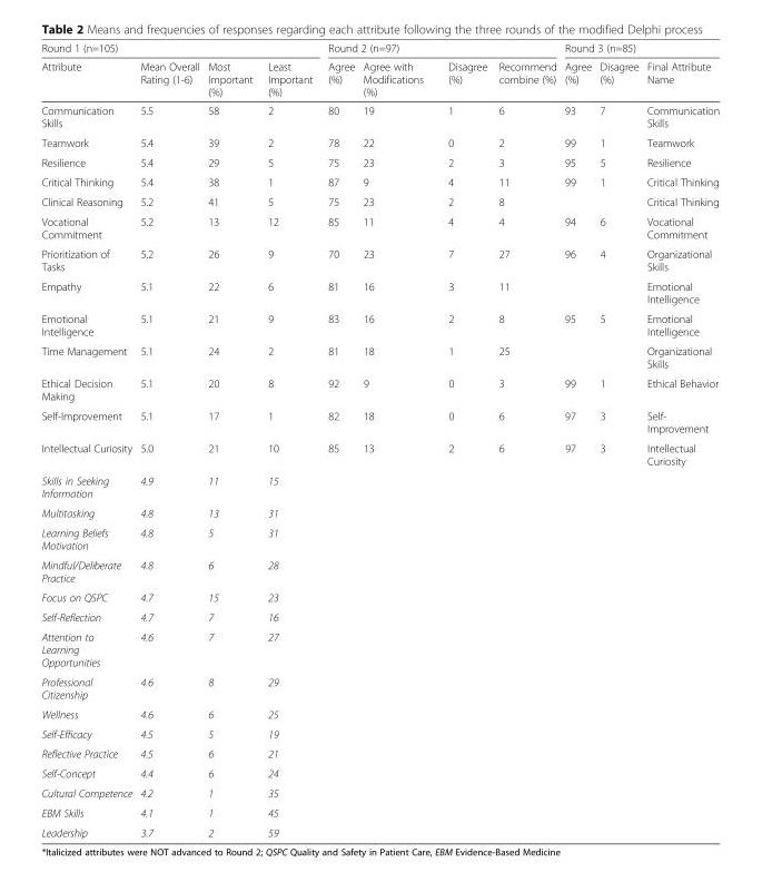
<table><thead><tr><td colspan="4">Round 1 (n=105)</td><td colspan="4">Round 2 (n=97)</td><td colspan="3">Round 3 (n=85)</td></tr><tr><td>Attribute</td><td>Mean Overall Rating (1-6)</td><td>Most Important (%)</td><td>Least Important (%)</td><td>Agree (%)</td><td>Agree with Modifications (%)</td><td>Disagree (%)</td><td>Recommend combine (%)</td><td>Agree (%)</td><td>Disagree (%)</td><td>Final Attribute Name</td></tr></thead><tbody><tr><td>Communication Skills</td><td>5.5</td><td>58</td><td>2</td><td>80</td><td>19</td><td>1</td><td>6</td><td>93</td><td>7</td><td>Communication Skills</td></tr><tr><td>Teamwork</td><td>5.4</td><td>39</td><td>2</td><td>78</td><td>22</td><td>0</td><td>2</td><td>99</td><td>1</td><td>Teamwork</td></tr><tr><td>Resilience</td><td>5.4</td><td>29</td><td>5</td><td>75</td><td>23</td><td>2</td><td>3</td><td>95</td><td>5</td><td>Resilience</td></tr><tr><td>Critical Thinking</td><td>5.4</td><td>38</td><td>1</td><td>87</td><td>9</td><td>4</td><td>11</td><td>99</td><td>1</td><td>Critical Thinking</td></tr><tr><td>Clinical Reasoning</td><td>5.2</td><td>41</td><td>5</td><td>75</td><td>23</td><td>2</td><td>8</td><td></td><td></td><td>Critical Thinking</td></tr><tr><td>Vocational Commitment</td><td>5.2</td><td>13</td><td>12</td><td>85</td><td>11</td><td>4</td><td>4</td><td>94</td><td>6</td><td>Vocational Commitment</td></tr><tr><td>Prioritization of Tasks</td><td>5.2</td><td>26</td><td>9</td><td>70</td><td>23</td><td>7</td><td>27</td><td>96</td><td>4</td><td>Organizational Skills</td></tr><tr><td>Empathy</td><td>5.1</td><td>22</td><td>6</td><td>81</td><td>16</td><td>3</td><td>11</td><td></td><td></td><td>Emotional Intelligence</td></tr><tr><td>Emotional Intelligence</td><td>5.1</td><td>21</td><td>9</td><td>83</td><td>16</td><td>2</td><td>8</td><td>95</td><td>5</td><td>Emotional Intelligence</td></tr><tr><td>Time Management</td><td>5.1</td><td>24</td><td>2</td><td>81</td><td>18</td><td>1</td><td>25</td><td></td><td></td><td>Organizational Skills</td></tr><tr><td>Ethical Decision Making</td><td>5.1</td><td>20</td><td>8</td><td>92</td><td>9</td><td>0</td><td>3</td><td>99</td><td>1</td><td>Ethical Behavior</td></tr><tr><td>Self-Improvement</td><td>5.1</td><td>17</td><td>1</td><td>82</td><td>18</td><td>0</td><td>6</td><td>97</td><td>3</td><td>Self- Improvement</td></tr><tr><td>Intellectual Curiosity</td><td>5.0</td><td>21</td><td>10</td><td>85</td><td>13</td><td>2</td><td>6</td><td>97</td><td>3</td><td>Intellectual Curiosity</td></tr><tr><td>Skills in Seeking Information</td><td>4.9</td><td>11</td><td>15</td><td></td><td></td><td></td><td></td><td></td><td></td><td></td></tr><tr><td>Multitasking</td><td>4.8</td><td>13</td><td>31</td><td></td><td></td><td></td><td></td><td></td><td></td><td></td></tr><tr><td>Learning Beliefs Motivation</td><td>4.8</td><td>5</td><td>31</td><td></td><td></td><td></td><td></td><td></td><td></td><td></td></tr><tr><td>Mindful/Deliberate Practice</td><td>4.8</td><td>6</td><td>28</td><td></td><td></td><td></td><td></td><td></td><td></td><td></td></tr><tr><td>Focus on QSPC</td><td>4.7</td><td>15</td><td>23</td><td></td><td></td><td></td><td></td><td></td><td></td><td></td></tr><tr><td>Self-Reflection</td><td>4.7</td><td>7</td><td>16</td><td></td><td></td><td></td><td></td><td></td><td></td><td></td></tr><tr><td>Attention to Learning Opportunities</td><td>4.6</td><td>7</td><td>27</td><td></td><td></td><td></td><td></td><td></td><td></td><td></td></tr><tr><td>Professional Citizenship</td><td>4.6</td><td>8</td><td>29</td><td></td><td></td><td></td><td></td><td></td><td></td><td></td></tr><tr><td>Wellness</td><td>4.6</td><td>6</td><td>25</td><td></td><td></td><td></td><td></td><td></td><td></td><td></td></tr><tr><td>Self-Efficacy</td><td>4.5</td><td>5</td><td>19</td><td></td><td></td><td></td><td></td><td></td><td></td><td></td></tr><tr><td>Reflective Practice</td><td>4.5</td><td>6</td><td>21</td><td></td><td></td><td></td><td></td><td></td><td></td><td></td></tr><tr><td>Self-Concept</td><td>4.4</td><td>6</td><td>24</td><td></td><td></td><td></td><td></td><td></td><td></td><td></td></tr><tr><td>Cultural Competence</td><td>4.2</td><td>1</td><td>35</td><td></td><td></td><td></td><td></td><td></td><td></td><td></td></tr><tr><td>EBM Skills</td><td>4.1</td><td>1</td><td>45</td><td></td><td></td><td></td><td></td><td></td><td></td><td></td></tr><tr><td>Leadership</td><td>3.7</td><td>2</td><td>59</td><td></td><td></td><td></td><td></td><td></td><td></td><td></td></tr></tbody></table>